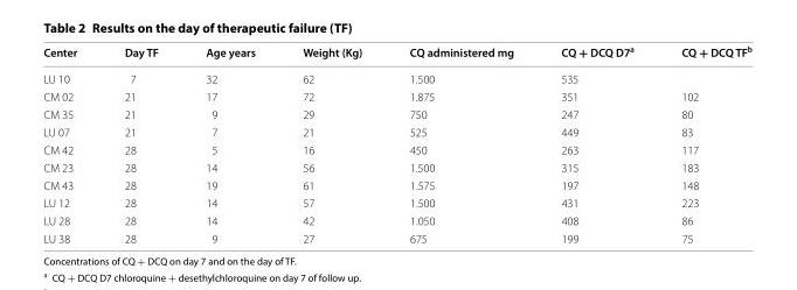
<table><thead><tr><td>Center</td><td>Day TF</td><td>Age years</td><td>Weight (Kg)</td><td>CQ administered mg</td><td>CQ + DCQ D7<sup>a</sup></td><td>CQ + DCQ TF<sup>b</sup></td></tr></thead><tbody><tr><td>LU 10</td><td>7</td><td>32</td><td>62</td><td>1.500</td><td>535</td><td></td></tr><tr><td>CM 02</td><td>21</td><td>17</td><td>72</td><td>1.875</td><td>351</td><td>102</td></tr><tr><td>CM 35</td><td>21</td><td>9</td><td>29</td><td>750</td><td>247</td><td>80</td></tr><tr><td>LU 07</td><td>21</td><td>7</td><td>21</td><td>525</td><td>449</td><td>83</td></tr><tr><td>CM 42</td><td>28</td><td>5</td><td>16</td><td>450</td><td>263</td><td>117</td></tr><tr><td>CM 23</td><td>28</td><td>14</td><td>56</td><td>1.500</td><td>315</td><td>183</td></tr><tr><td>CM 43</td><td>28</td><td>19</td><td>61</td><td>1.575</td><td>197</td><td>148</td></tr><tr><td>LU 12</td><td>28</td><td>14</td><td>57</td><td>1.500</td><td>431</td><td>223</td></tr><tr><td>LU 28</td><td>28</td><td>14</td><td>42</td><td>1.050</td><td>408</td><td>86</td></tr><tr><td>LU 38</td><td>28</td><td>9</td><td>27</td><td>675</td><td>199</td><td>75</td></tr></tbody></table>